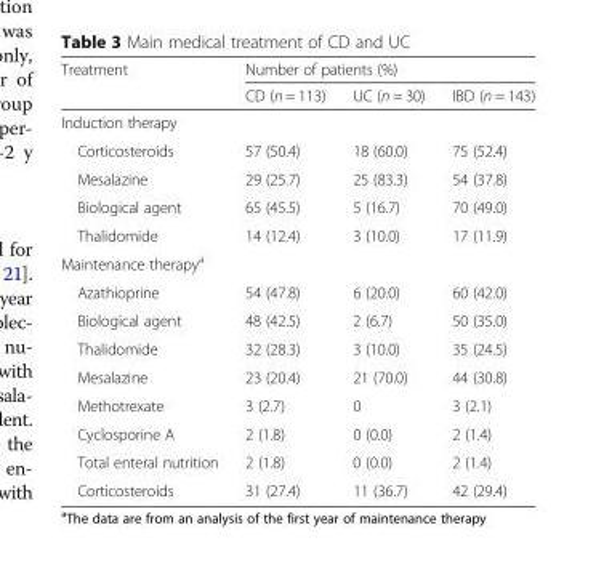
<table><thead><tr><td rowspan="2">Treatment</td><td colspan="3">Number of patients (%)</td></tr><tr><td>CD (n = 113)</td><td>UC (n = 30)</td><td>IBD (n = 143)</td></tr></thead><tbody><tr><td colspan="4">Induction therapy</td></tr><tr><td>Corticosteroids</td><td>57 (50.4)</td><td>18 (60.0)</td><td>75 (52.4)</td></tr><tr><td>Mesalazine</td><td>29 (25.7)</td><td>25 (83.3)</td><td>54 (37.8)</td></tr><tr><td>Biological agent</td><td>65 (45.5)</td><td>5 (16.7)</td><td>70 (49.0)</td></tr><tr><td>Thalidomide</td><td>14 (12.4)</td><td>3 (10.0)</td><td>17 (11.9)</td></tr><tr><td colspan="4">Maintenance therapy<sup>a</sup></td></tr><tr><td>Azathioprine</td><td>54 (47.8)</td><td>6 (20.0)</td><td>60 (42.0)</td></tr><tr><td>Biological agent</td><td>48 (42.5)</td><td>2 (6.7)</td><td>50 (35.0)</td></tr><tr><td>Thalidomide</td><td>32 (28.3)</td><td>3 (10.0)</td><td>35 (24.5)</td></tr><tr><td>Mesalazine</td><td>23 (20.4)</td><td>21 (70.0)</td><td>44 (30.8)</td></tr><tr><td>Methotrexate</td><td>3 (2.7)</td><td>0</td><td>3 (2.1)</td></tr><tr><td>Cyclosporine A</td><td>2 (1.8)</td><td>0 (0.0)</td><td>2 (1.4)</td></tr><tr><td>Total enteral nutrition</td><td>2 (1.8)</td><td>0 (0.0)</td><td>2 (1.4)</td></tr><tr><td>Corticosteroids</td><td>31 (27.4)</td><td>11 (36.7)</td><td>42 (29.4)</td></tr></tbody></table>